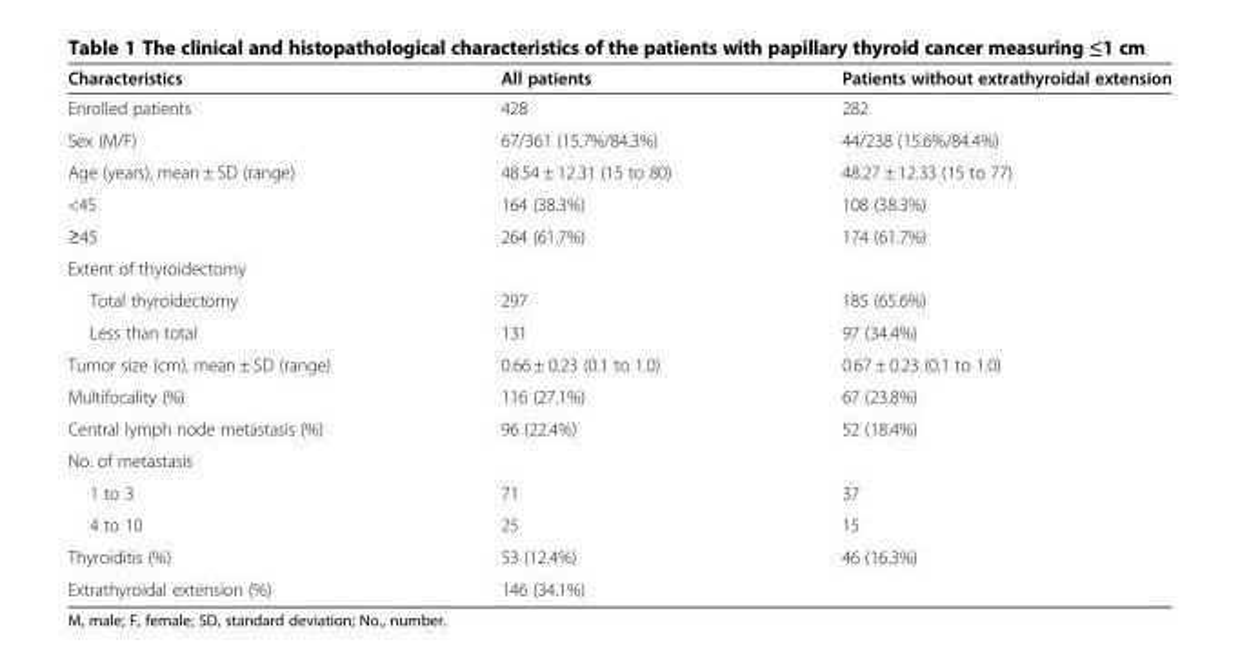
<table><thead><tr><td>Characteristics</td><td>All patients</td><td>Patients without extrathyroidal extension</td></tr></thead><tbody><tr><td>Enrolled patients</td><td>428</td><td>282</td></tr><tr><td>Sex (M/F)</td><td>67/361 (15.7%/84.3%)</td><td>44/238 (15.6%/84.4%)</td></tr><tr><td>Age (years), mean ± SD (range)</td><td>48.54 ± 12.31 (15 to 80)</td><td>48.27 ± 12.33 (15 to 77)</td></tr><tr><td>&lt;45</td><td>164 (38.3%)</td><td>108 (38.3%)</td></tr><tr><td>≥45</td><td>264 (61.7%)</td><td>174 (61.7%)</td></tr><tr><td colspan="3">Extent of thyroidectomy</td></tr><tr><td>Total thyroidectomy</td><td>297</td><td>185 (65.6%)</td></tr><tr><td>Less than total</td><td>131</td><td>97 (34.4%)</td></tr><tr><td>Tumor size (cm), mean ± SD (range)</td><td>0.66 ± 0.23 (0.1 to 1.0)</td><td>0.67 ± 0.23 (0.1 to 1.0)</td></tr><tr><td>Multifocality (%)</td><td>116 (27.1%)</td><td>67 (23.8%)</td></tr><tr><td>Central lymph node metastasis (%)</td><td>96 (22.4%)</td><td>52 (18.4%)</td></tr><tr><td colspan="3">No. of metastasis</td></tr><tr><td>1 to 3</td><td>71</td><td>37</td></tr><tr><td>4 to 10</td><td>25</td><td>15</td></tr><tr><td>Thyroiditis (%)</td><td>53 (12.4%)</td><td>46 (16.3%)</td></tr><tr><td>Extrathyroidal extension (%)</td><td>146 (34.1%)</td><td></td></tr></tbody></table>